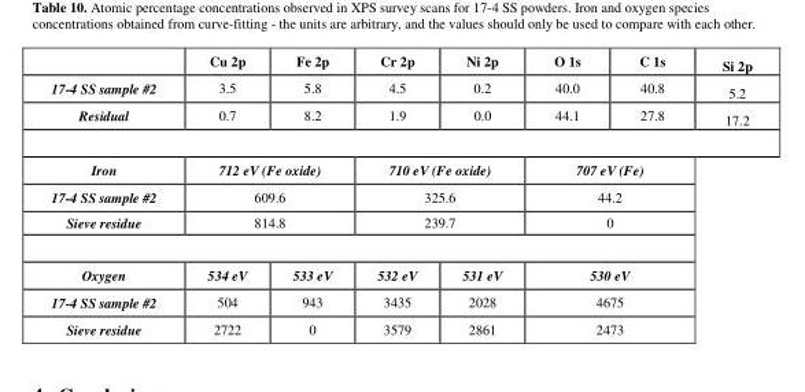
<table><thead><tr><td></td><td>Cu 2p</td><td>Fe 2p</td><td>Cr 2p</td><td>Ni 2p</td><td>O 1s</td><td>C 1s</td><td>Si 2p</td></tr></thead><tbody><tr><td>17-4 SS sample #2</td><td>3.5</td><td>5.8</td><td>4.5</td><td>0.2</td><td>40.0</td><td>40.8</td><td>5.2</td></tr><tr><td>Residual</td><td>0.7</td><td>8.2</td><td>1.9</td><td>0.0</td><td>44.1</td><td>27.8</td><td>17.2</td></tr><tr><td>Iron</td><td colspan="2">712 eV (Fe oxide)</td><td colspan="2">710 eV (Fe oxide)</td><td colspan="2">707 eV (Fe)</td><td rowspan="6"></td></tr><tr><td>17-4 SS sample #2</td><td colspan="2">609.6</td><td colspan="2">325.6</td><td colspan="2">44.2</td></tr><tr><td>Sieve residue</td><td colspan="2">814.8</td><td colspan="2">239.7</td><td colspan="2">0</td></tr><tr><td>Oxygen</td><td>534 eV</td><td>533 eV</td><td>532 eV</td><td>531 eV</td><td colspan="2">530 eV</td></tr><tr><td>17-4 SS sample #2</td><td>504</td><td>943</td><td>3435</td><td>2028</td><td colspan="2">4675</td></tr><tr><td>Sieve residue</td><td>2722</td><td>0</td><td>3579</td><td>2861</td><td colspan="2">2473</td></tr></tbody></table>